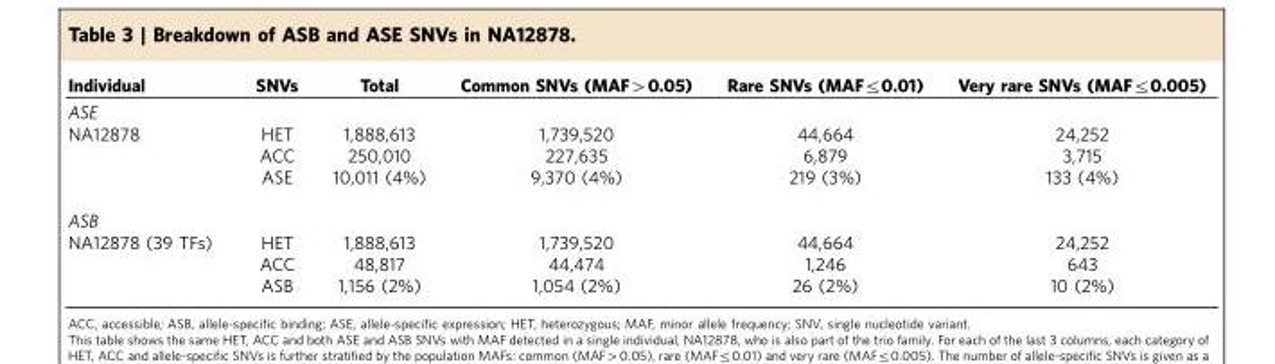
<table><thead><tr><td>Individual</td><td>SNVs</td><td>Total</td><td>Common SNVs (MAF&gt;0.05)</td><td>Rare SNVs (MAF≤0.01)</td><td>Very rare SNVs (MAF≤0.005)</td></tr></thead><tbody><tr><td colspan="6">ASE</td></tr><tr><td rowspan="3">NA12878</td><td>HET</td><td>1,888,613</td><td>1,739,520</td><td>44,664</td><td>24,252</td></tr><tr><td>ACC</td><td>250,010</td><td>227,635</td><td>6,879</td><td>3,715</td></tr><tr><td>ASE</td><td>10,011 (4%)</td><td>9,370 (4%)</td><td>219 (3%)</td><td>133 (4%)</td></tr><tr><td colspan="6">ASB</td></tr><tr><td rowspan="3">NA12878 (39 TFs)</td><td>HET</td><td>1,888,613</td><td>1,739,520</td><td>44,664</td><td>24,252</td></tr><tr><td>ACC</td><td>48,817</td><td>44,474</td><td>1,246</td><td>643</td></tr><tr><td>ASB</td><td>1,156 (2%)</td><td>1,054 (2%)</td><td>26 (2%)</td><td>10 (2%)</td></tr></tbody></table>